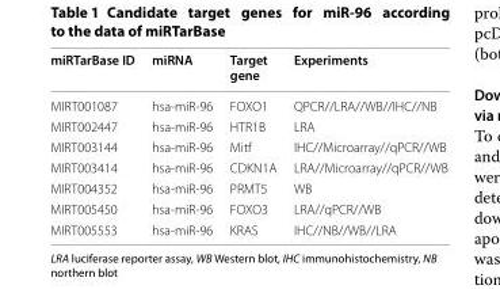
<table><thead><tr><td>miRTarBase ID</td><td>miRNA</td><td>Target gene</td><td>Experiments</td></tr></thead><tbody><tr><td>MIRT001087</td><td>hsa-miR-96</td><td>FOXO1</td><td>QPCR//LRA//WB//IHC//NB</td></tr><tr><td>MIRT002447</td><td>hsa-miR-96</td><td>HTR1B</td><td>LRA</td></tr><tr><td>MIRT003144</td><td>hsa-miR-96</td><td>Mitf</td><td>IHC//Microarray//qPCR//WB</td></tr><tr><td>MIRT003414</td><td>hsa-miR-96</td><td>CDKN1A</td><td>LRA//Microarray//qPCR//WB</td></tr><tr><td>MIRT004352</td><td>hsa-miR-96</td><td>PRMT5</td><td>WB</td></tr><tr><td>MIRT005450</td><td>hsa-miR-96</td><td>FOXO3</td><td>LRA//qPCR//WB</td></tr><tr><td>MIRT005553</td><td>hsa-miR-96</td><td>KRAS</td><td>IHC//NB//WB//LRA</td></tr></tbody></table>